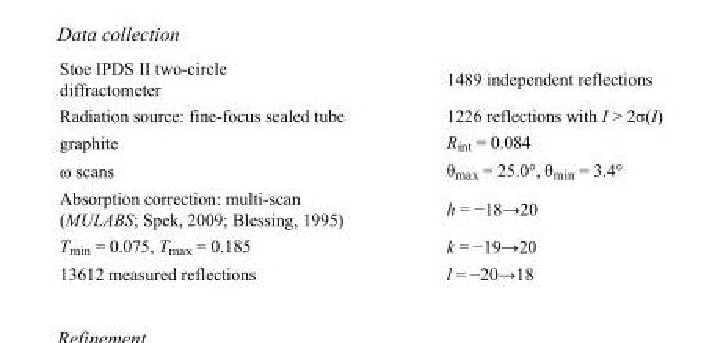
<table><tbody><tr><td>Stoe IPDS II two-circle diffractometer</td><td>1489 independent reflections</td></tr><tr><td>Radiation source: fine-focus sealed tube</td><td>1226 reflections with I &gt; 2σ(I)</td></tr><tr><td>graphite</td><td>R<sub>int</sub> = 0.084</td></tr><tr><td>ω scans</td><td>θ<sub>max</sub> = 25.0°, θ<sub>min</sub> = 3.4°</td></tr><tr><td>Absorption correction: multi-scan (MULABS; Spek, 2009; Blessing, 1995)</td><td>h = −18→20</td></tr><tr><td>T<sub>min</sub> = 0.075, T<sub>max</sub> = 0.185</td><td>k = −19→20</td></tr><tr><td>13612 measured reflections</td><td>l = −20→18</td></tr></tbody></table>